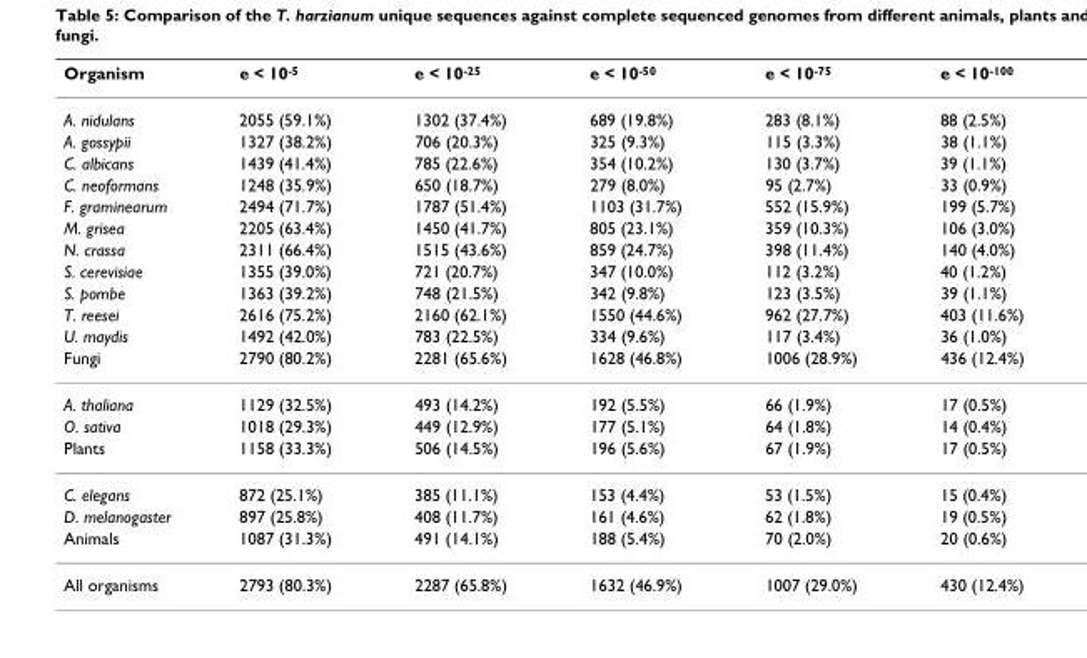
<table><thead><tr><td>Organism</td><td>e &lt; 10-5</td><td>e &lt; 10-25</td><td>e &lt; 10-50</td><td>e &lt; 10-75</td><td>e &lt; 10-100</td></tr></thead><tbody><tr><td>A. nidulans</td><td>2055 (59.1%)</td><td>1302 (37.4%)</td><td>689 (19.8%)</td><td>283 (8.1%)</td><td>88 (2.5%)</td></tr><tr><td>A. gossypii</td><td>1327 (38.2%)</td><td>706 (20.3%)</td><td>325 (9.3%)</td><td>115 (3.3%)</td><td>38 (1.1%)</td></tr><tr><td>C. albicans</td><td>1439 (41.4%)</td><td>785 (22.6%)</td><td>354 (10.2%)</td><td>130 (3.7%)</td><td>39 (1.1%)</td></tr><tr><td>C. neoformans</td><td>1248 (35.9%)</td><td>650 (18.7%)</td><td>279 (8.0%)</td><td>95 (2.7%)</td><td>33 (0.9%)</td></tr><tr><td>F. graminearum</td><td>2494 (71.7%)</td><td>1787 (51.4%)</td><td>1103 (31.7%)</td><td>552 (15.9%)</td><td>199 (5.7%)</td></tr><tr><td>M. grisea</td><td>2205 (63.4%)</td><td>1450 (41.7%)</td><td>805 (23.1%)</td><td>359 (10.3%)</td><td>106 (3.0%)</td></tr><tr><td>N. crassa</td><td>2311 (66.4%)</td><td>1515 (43.6%)</td><td>859 (24.7%)</td><td>398 (11.4%)</td><td>140 (4.0%)</td></tr><tr><td>S. cerevisiae</td><td>1355 (39.0%)</td><td>721 (20.7%)</td><td>347 (10.0%)</td><td>112 (3.2%)</td><td>40 (1.2%)</td></tr><tr><td>S. pombe</td><td>1363 (39.2%)</td><td>748 (21.5%)</td><td>342 (9.8%)</td><td>123 (3.5%)</td><td>39 (1.1%)</td></tr><tr><td>T. reesei</td><td>2616 (75.2%)</td><td>2160 (62.1%)</td><td>1550 (44.6%)</td><td>962 (27.7%)</td><td>403 (11.6%)</td></tr><tr><td>U. maydis</td><td>1492 (42.0%)</td><td>783 (22.5%)</td><td>334 (9.6%)</td><td>117 (3.4%)</td><td>36 (1.0%)</td></tr><tr><td>Fungi</td><td>2790 (80.2%)</td><td>2281 (65.6%)</td><td>1628 (46.8%)</td><td>1006 (28.9%)</td><td>436 (12.4%)</td></tr><tr><td>A. thaliana</td><td>1129 (32.5%)</td><td>493 (14.2%)</td><td>192 (5.5%)</td><td>66 (1.9%)</td><td>17 (0.5%)</td></tr><tr><td>O. sativa</td><td>1018 (29.3%)</td><td>449 (12.9%)</td><td>177 (5.1%)</td><td>64 (1.8%)</td><td>14 (0.4%)</td></tr><tr><td>Plants</td><td>1158 (33.3%)</td><td>506 (14.5%)</td><td>196 (5.6%)</td><td>67 (1.9%)</td><td>17 (0.5%)</td></tr><tr><td>C. elegans</td><td>872 (25.1%)</td><td>385 (11.1%)</td><td>153 (4.4%)</td><td>53 (1.5%)</td><td>15 (0.4%)</td></tr><tr><td>D. melanogaster</td><td>897 (25.8%)</td><td>408 (11.7%)</td><td>161 (4.6%)</td><td>62 (1.8%)</td><td>19 (0.5%)</td></tr><tr><td>Animals</td><td>1087 (31.3%)</td><td>491 (14.1%)</td><td>188 (5.4%)</td><td>70 (2.0%)</td><td>20 (0.6%)</td></tr><tr><td>All organisms</td><td>2793 (80.3%)</td><td>2287 (65.8%)</td><td>1632 (46.9%)</td><td>1007 (29.0%)</td><td>430 (12.4%)</td></tr></tbody></table>